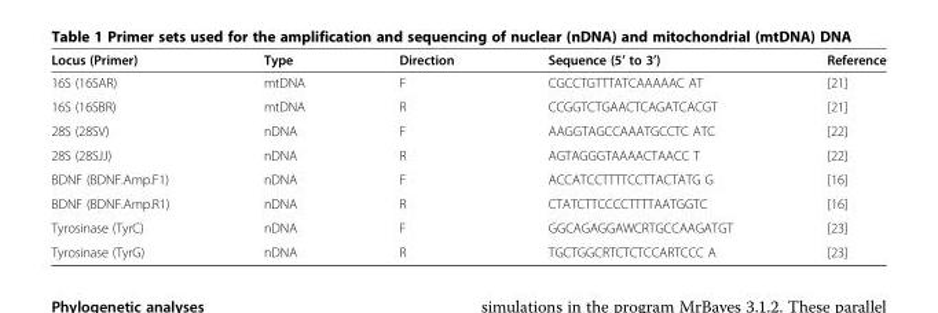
<table><thead><tr><td>Locus (Primer)</td><td>Type</td><td>Direction</td><td>Sequence (5’ to 3’)</td><td>Reference</td></tr></thead><tbody><tr><td>16S (16SAR)</td><td>mtDNA</td><td>F</td><td>CGCCTGTTTATCAAAAAC AT</td><td>[21]</td></tr><tr><td>16S (16SBR)</td><td>mtDNA</td><td>R</td><td>CCGGTCTGAACTCAGATCACGT</td><td>[21]</td></tr><tr><td>28S (28SV)</td><td>nDNA</td><td>F</td><td>AAGGTAGCCAAATGCCTC ATC</td><td>[22]</td></tr><tr><td>28S (28SJJ)</td><td>nDNA</td><td>R</td><td>AGTAGGGTAAAACTAACC T</td><td>[22]</td></tr><tr><td>BDNF (BDNF.Amp.F1)</td><td>nDNA</td><td>F</td><td>ACCATCCTTTTCCTTACTATG G</td><td>[16]</td></tr><tr><td>BDNF (BDNF.Amp.R1)</td><td>nDNA</td><td>R</td><td>CTATCTTCCCCTTTTAATGGTC</td><td>[16]</td></tr><tr><td>Tyrosinase (TyrC)</td><td>nDNA</td><td>F</td><td>GGCAGAGGAWCRTGCCAAGATGT</td><td>[23]</td></tr><tr><td>Tyrosinase (TyrG)</td><td>nDNA</td><td>R</td><td>TGCTGGCRTCTCTCCARTCCC A</td><td>[23]</td></tr></tbody></table>